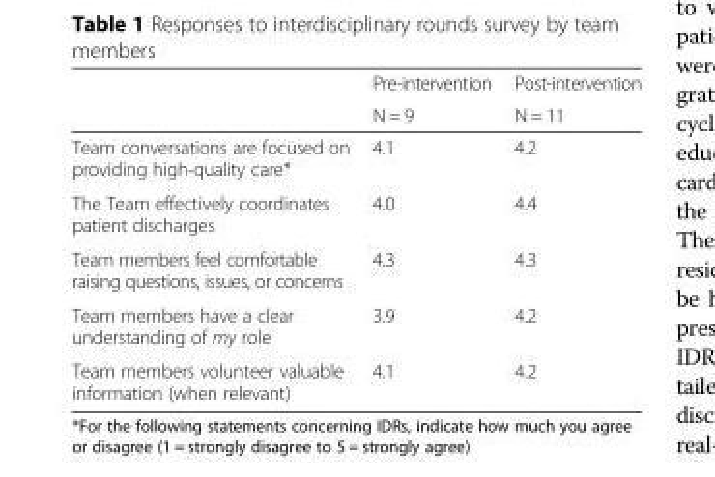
<table><thead><tr><td rowspan="2"></td><td rowspan="2">Pre-intervention N = 9</td><td rowspan="2">Post-intervention N = 11</td></tr><tr></tr></thead><tbody><tr><td>Team conversations are focused on providing high-quality care*</td><td>4.1</td><td>4.2</td></tr><tr><td>The Team effectively coordinates patient discharges</td><td>4.0</td><td>4.4</td></tr><tr><td>Team members feel comfortable raising questions, issues, or concerns</td><td>4.3</td><td>4.3</td></tr><tr><td>Team members have a clear understanding of my role</td><td>3.9</td><td>4.2</td></tr><tr><td>Team members volunteer valuable information (when relevant)</td><td>4.1</td><td>4.2</td></tr></tbody></table>